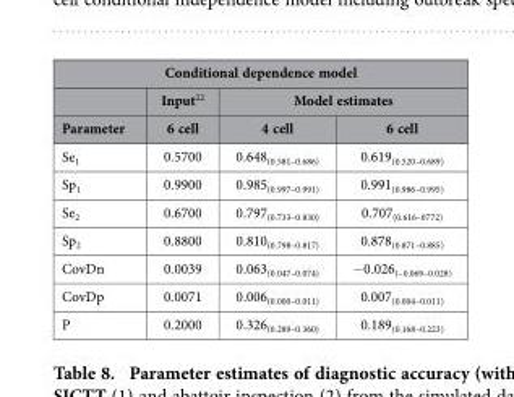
<table><thead><tr><td colspan="4">Conditional dependence model</td></tr><tr><td rowspan="2">Parameter</td><td rowspan="2">Input<sup>22</sup> 6 cell</td><td colspan="2">Model estimates</td></tr><tr><td>4 cell</td><td>6 cell</td></tr></thead><tbody><tr><td>Se<sub>1</sub></td><td>0.5700</td><td>0.648<sub>(0.581–0.686)</sub></td><td>0.619<sub>(0.520–0.689)</sub></td></tr><tr><td>Sp<sub>1</sub></td><td>0.9900</td><td>0.985<sub>(0.997–0.991)</sub></td><td>0.991<sub>(0.986–0.995)</sub></td></tr><tr><td>Se<sub>2</sub></td><td>0.6700</td><td>0.797<sub>(0.733–0.830)</sub></td><td>0.707<sub>(0.616–0772)</sub></td></tr><tr><td>Sp<sub>2</sub></td><td>0.8800</td><td>0.810<sub>(0.798–0.817)</sub></td><td>0.878<sub>(0.871–0.885)</sub></td></tr><tr><td>CovDn</td><td>0.0039</td><td>0.063<sub>(0.047–0.074)</sub></td><td><sub>−</sub>0.026<sub>(–0.069–0.028)</sub></td></tr><tr><td>CovDp</td><td>0.0071</td><td>0.006<sub>(0.000–0.011)</sub></td><td>0.007<sub>(0.004–0.011)</sub></td></tr><tr><td>P</td><td>0.2000</td><td>0.326<sub>(0.289–0.360)</sub></td><td>0.189<sub>(0.168–0.223)</sub></td></tr></tbody></table>